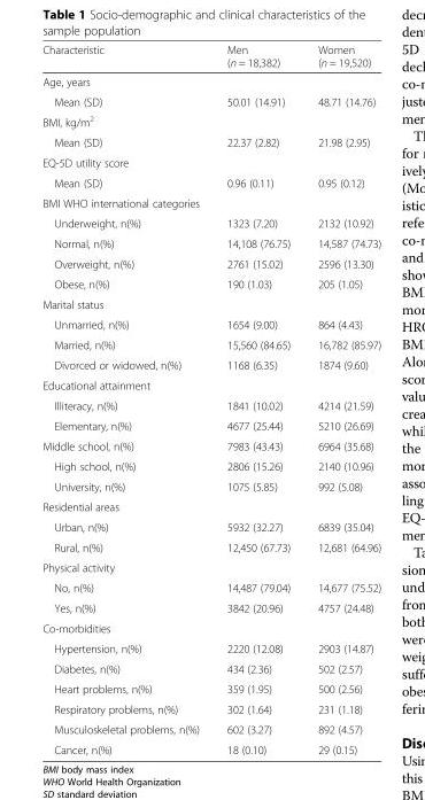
<table><thead><tr><td>Characteristic</td><td>Men (n = 18,382)</td><td>Women (n = 19,520)</td></tr></thead><tbody><tr><td colspan="3">Age, years</td></tr><tr><td>Mean (SD)</td><td>50.01 (14.91)</td><td>48.71 (14.76)</td></tr><tr><td colspan="3">BMI, kg/m<sup>2</sup></td></tr><tr><td>Mean (SD)</td><td>22.37 (2.82)</td><td>21.98 (2.95)</td></tr><tr><td colspan="3">EQ-5D utility score</td></tr><tr><td>Mean (SD)</td><td>0.96 (0.11)</td><td>0.95 (0.12)</td></tr><tr><td colspan="3">BMI WHO international categories</td></tr><tr><td>Underweight, n(%)</td><td>1323 (7.20)</td><td>2132 (10.92)</td></tr><tr><td>Normal, n(%)</td><td>14,108 (76.75)</td><td>14,587 (74.73)</td></tr><tr><td>Overweight, n(%)</td><td>2761 (15.02)</td><td>2596 (13.30)</td></tr><tr><td>Obese, n(%)</td><td>190 (1.03)</td><td>205 (1.05)</td></tr><tr><td colspan="3">Marital status</td></tr><tr><td>Unmarried, n(%)</td><td>1654 (9.00)</td><td>864 (4.43)</td></tr><tr><td>Married, n(%)</td><td>15,560 (84.65)</td><td>16,782 (85.97)</td></tr><tr><td>Divorced or widowed, n(%)</td><td>1168 (6.35)</td><td>1874 (9.60)</td></tr><tr><td colspan="3">Educational attainment</td></tr><tr><td>Illiteracy, n(%)</td><td>1841 (10.02)</td><td>4214 (21.59)</td></tr><tr><td>Elementary, n(%)</td><td>4677 (25.44)</td><td>5210 (26.69)</td></tr><tr><td>Middle school, n(%)</td><td>7983 (43.43)</td><td>6964 (35.68)</td></tr><tr><td>High school, n(%)</td><td>2806 (15.26)</td><td>2140 (10.96)</td></tr><tr><td>University, n(%)</td><td>1075 (5.85)</td><td>992 (5.08)</td></tr><tr><td colspan="3">Residential areas</td></tr><tr><td>Urban, n(%)</td><td>5932 (32.27)</td><td>6839 (35.04)</td></tr><tr><td>Rural, n(%)</td><td>12,450 (67.73)</td><td>12,681 (64.96)</td></tr><tr><td colspan="3">Physical activity</td></tr><tr><td>No, n(%)</td><td>14,487 (79.04)</td><td>14,677 (75.52)</td></tr><tr><td>Yes, n(%)</td><td>3842 (20.96)</td><td>4757 (24.48)</td></tr><tr><td colspan="3">Co-morbidities</td></tr><tr><td>Hypertension, n(%)</td><td>2220 (12.08)</td><td>2903 (14.87)</td></tr><tr><td>Diabetes, n(%)</td><td>434 (2.36)</td><td>502 (2.57)</td></tr><tr><td>Heart problems, n(%)</td><td>359 (1.95)</td><td>500 (2.56)</td></tr><tr><td>Respiratory problems, n(%)</td><td>302 (1.64)</td><td>231 (1.18)</td></tr><tr><td>Musculoskeletal problems, n(%)</td><td>602 (3.27)</td><td>892 (4.57)</td></tr><tr><td>Cancer, n(%)</td><td>18 (0.10)</td><td>29 (0.15)</td></tr></tbody></table>